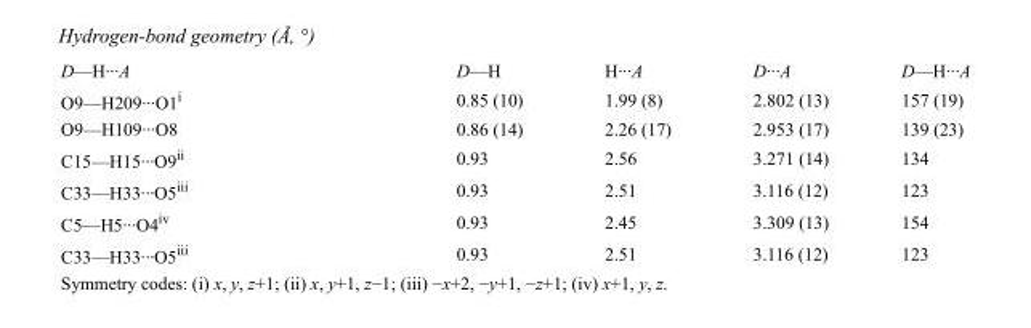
<table><tbody><tr><td>D—H···A</td><td>D—H</td><td>H···A</td><td>D···A</td><td>D—H···A</td></tr><tr><td>O9—H209···O1<sup>i</sup></td><td>0.85 (10)</td><td>1.99 (8)</td><td>2.802 (13)</td><td>157 (19)</td></tr><tr><td>O9—H109···O8</td><td>0.86 (14)</td><td>2.26 (17)</td><td>2.953 (17)</td><td>139 (23)</td></tr><tr><td>C15—H15···O9<sup>ii</sup></td><td>0.93</td><td>2.56</td><td>3.271 (14)</td><td>134</td></tr><tr><td>C33—H33···O5<sup>iii</sup></td><td>0.93</td><td>2.51</td><td>3.116 (12)</td><td>123</td></tr><tr><td>C5—H5···O4<sup>iv</sup></td><td>0.93</td><td>2.45</td><td>3.309 (13)</td><td>154</td></tr><tr><td>C33—H33···O5<sup>iii</sup></td><td>0.93</td><td>2.51</td><td>3.116 (12)</td><td>123</td></tr></tbody></table>